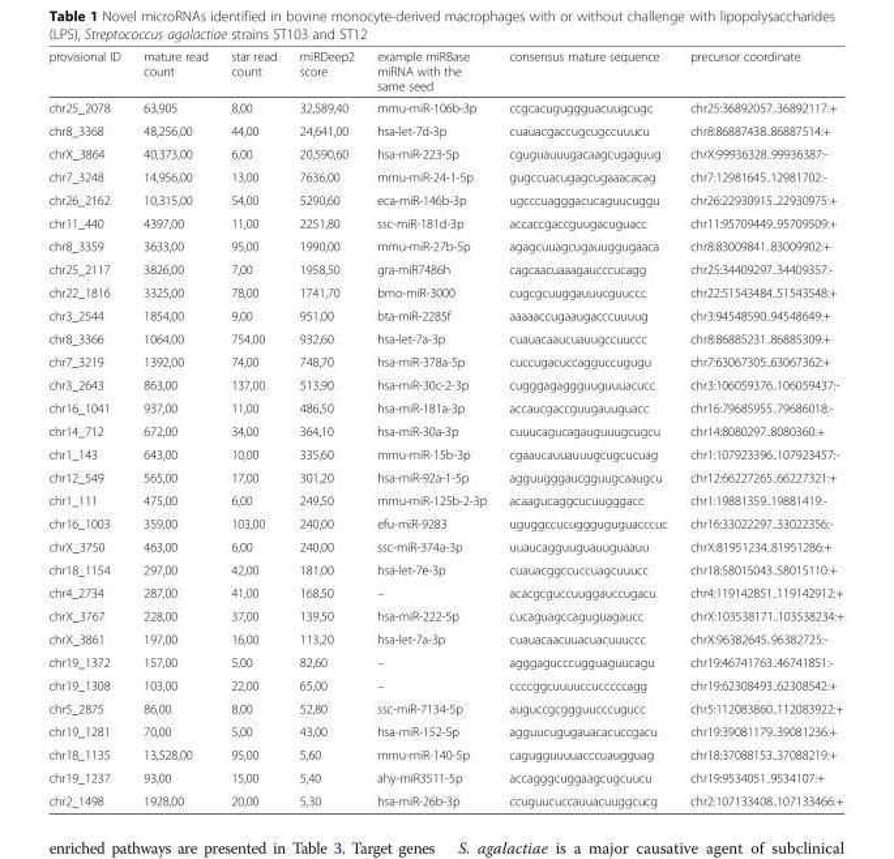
<table><thead><tr><td>provisional ID</td><td>mature read count</td><td>star read count</td><td>miRDeep2 score</td><td>example miRBase miRNA with the same seed</td><td>consensus mature sequence</td><td>precursor coordinate</td></tr></thead><tbody><tr><td>chr25_2078</td><td>63,905</td><td>8,00</td><td>32,589,40</td><td>mmu-miR-106b-3p</td><td>ccgcacuguggguacuugcugc</td><td>chr25:36892057..36892117:+</td></tr><tr><td>chr8_3368</td><td>48,256,00</td><td>44,00</td><td>24,641,00</td><td>hsa-let-7d-3p</td><td>cuauacgaccugcugccuuucu</td><td>chr8:86887438..86887514:+</td></tr><tr><td>chrX_3864</td><td>40,373,00</td><td>6,00</td><td>20,590,60</td><td>hsa-miR-223-5p</td><td>cguguauuugacaagcugaguug</td><td>chrX:99936328..99936387:-</td></tr><tr><td>chr7_3248</td><td>14,956,00</td><td>13,00</td><td>7636,00</td><td>mmu-miR-24-1-5p</td><td>gugccuacugagcugaaacacag</td><td>chr7:12981645..12981702:-</td></tr><tr><td>chr26_2162</td><td>10,315,00</td><td>54,00</td><td>5290,60</td><td>eca-miR-146b-3p</td><td>ugcccuagggacucaguucuggu</td><td>chr26:22930915..22930975:+</td></tr><tr><td>chr11_440</td><td>4397,00</td><td>11,00</td><td>2251,80</td><td>ssc-miR-181d-3p</td><td>accaccgaccguugacuguacc</td><td>chr11:95709449..95709509:+</td></tr><tr><td>chr8_3359</td><td>3633,00</td><td>95,00</td><td>1990,00</td><td>mmu-miR-27b-5p</td><td>agagcuuagcugauuggugaaca</td><td>chr8:83009841..83009902:+</td></tr><tr><td>chr25_2117</td><td>3826,00</td><td>7,00</td><td>1958,50</td><td>gra-miR7486h</td><td>cagcaacuaaagaucccucagg</td><td>chr25:34409297..34409357:-</td></tr><tr><td>chr22_1816</td><td>3325,00</td><td>78,00</td><td>1741,70</td><td>bmo-miR-3000</td><td>cugcgcuuggauuucguuccc</td><td>chr22:51543484..51543548:+</td></tr><tr><td>chr3_2544</td><td>1854,00</td><td>9,00</td><td>951,00</td><td>bta-miR-2285f</td><td>aaaaaccugaaugacccuuuug</td><td>chr3:94548590..94548649:+</td></tr><tr><td>chr8_3366</td><td>1064,00</td><td>754,00</td><td>932,60</td><td>hsa-let-7a-3p</td><td>cuauacaaucuauugccuuccc</td><td>chr8:86885231..86885309:+</td></tr><tr><td>chr7_3219</td><td>1392,00</td><td>74,00</td><td>748,70</td><td>hsa-miR-378a-5p</td><td>cuccugacuccagguccugugu</td><td>chr7:63067305..63067362:+</td></tr><tr><td>chr3_2643</td><td>863,00</td><td>137,00</td><td>513,90</td><td>hsa-miR-30c-2-3p</td><td>cugggagaggguuguuuacucc</td><td>chr3:106059376..106059437:-</td></tr><tr><td>chr16_1041</td><td>937,00</td><td>11,00</td><td>486,50</td><td>hsa-miR-181a-3p</td><td>accaucgaccguugauuguacc</td><td>chr16:79685955..79686018:-</td></tr><tr><td>chr14_712</td><td>672,00</td><td>34,00</td><td>364,10</td><td>hsa-miR-30a-3p</td><td>cuuucagucagauguuugcugcu</td><td>chr14:8080297..8080360:+</td></tr><tr><td>chr1_143</td><td>643,00</td><td>10,00</td><td>335,60</td><td>mmu-miR-15b-3p</td><td>cgaaucauuauuugcugcucuag</td><td>chr1:107923396..107923457:-</td></tr><tr><td>chr12_549</td><td>565,00</td><td>17,00</td><td>301,20</td><td>hsa-miR-92a-1-5p</td><td>agguugggaucgguugcaaugcu</td><td>chr12:66227265..66227321:+</td></tr><tr><td>chr1_111</td><td>475,00</td><td>6,00</td><td>249,50</td><td>mmu-miR-125b-2-3p</td><td>acaagucaggcucuugggacc</td><td>chr1:19881359..19881419:-</td></tr><tr><td>chr16_1003</td><td>359,00</td><td>103,00</td><td>240,00</td><td>efu-miR-9283</td><td>uguggccucuggguguguacccuc</td><td>chr16:33022297..33022356:-</td></tr><tr><td>chrX_3750</td><td>463,00</td><td>6,00</td><td>240,00</td><td>ssc-miR-374a-3p</td><td>uuaucagguuguauuguaauu</td><td>chrX:81951234..81951286:+</td></tr><tr><td>chr18_1154</td><td>297,00</td><td>42,00</td><td>181,00</td><td>hsa-let-7e-3p</td><td>cuauacggccuccuagcuuucc</td><td>chr18:58015043..58015110:+</td></tr><tr><td>chr4_2734</td><td>287,00</td><td>41,00</td><td>168,50</td><td>–</td><td>acacgcguccuuggauccugacu</td><td>chr4:119142851..119142912:+</td></tr><tr><td>chrX_3767</td><td>228,00</td><td>37,00</td><td>139,50</td><td>hsa-miR-222-5p</td><td>cucaguagccaguguagaucc</td><td>chrX:103538171..103538234:+</td></tr><tr><td>chrX_3861</td><td>197,00</td><td>16,00</td><td>113,20</td><td>hsa-let-7a-3p</td><td>cuauacaacuuacuacuuuccc</td><td>chrX:96382645..96382725:-</td></tr><tr><td>chr19_1372</td><td>157,00</td><td>5,00</td><td>82,60</td><td>–</td><td>agggagucccugguaguucagu</td><td>chr19:46741763..46741851:-</td></tr><tr><td>chr19_1308</td><td>103,00</td><td>22,00</td><td>65,00</td><td>–</td><td>ccccggcuuuuccucccccagg</td><td>chr19:62308493..62308542:+</td></tr><tr><td>chr5_2875</td><td>86,00</td><td>8,00</td><td>52,80</td><td>ssc-miR-7134-5p</td><td>auguccgcggguucccugucc</td><td>chr5:112083860..112083922:+</td></tr><tr><td>chr19_1281</td><td>70,00</td><td>5,00</td><td>43,00</td><td>hsa-miR-152-5p</td><td>agguucugugauacacuccgacu</td><td>chr19:39081179..39081236:+</td></tr><tr><td>chr18_1135</td><td>13,528,00</td><td>95,00</td><td>5,60</td><td>mmu-miR-140-5p</td><td>cagugguuuuacccuaugguag</td><td>chr18:37088153..37088219:+</td></tr><tr><td>chr19_1237</td><td>93,00</td><td>15,00</td><td>5,40</td><td>ahy-miR3511-5p</td><td>accagggcuggaagcugcuucu</td><td>chr19:9534051..9534107:+</td></tr><tr><td>chr2_1498</td><td>1928,00</td><td>20,00</td><td>5,30</td><td>hsa-miR-26b-3p</td><td>ccuguucuccauuacuuggcucg</td><td>chr2:107133408..107133466:+</td></tr></tbody></table>